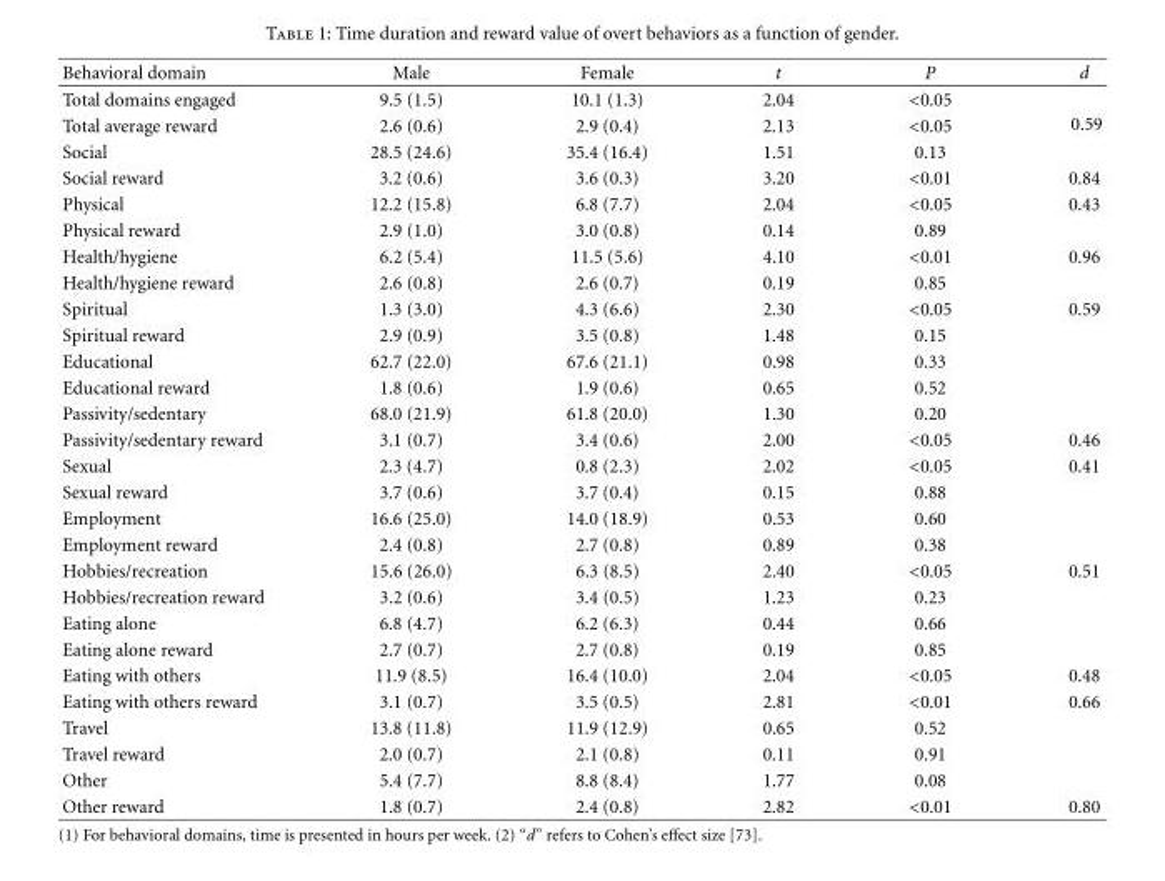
<table><thead><tr><td>Behavioral domain</td><td>Male</td><td>Female</td><td>t</td><td>P</td><td>d</td></tr></thead><tbody><tr><td>Total domains engaged</td><td>9.5 (1.5)</td><td>10.1 (1.3)</td><td>2.04</td><td>&lt;0.05</td><td rowspan="3">0.59</td></tr><tr><td>Total average reward</td><td>2.6 (0.6)</td><td>2.9 (0.4)</td><td>2.13</td><td>&lt;0.05</td></tr><tr><td>Social</td><td>28.5 (24.6)</td><td>35.4 (16.4)</td><td>1.51</td><td>0.13</td></tr><tr><td>Social reward</td><td>3.2 (0.6)</td><td>3.6 (0.3)</td><td>3.20</td><td>&lt;0.01</td><td>0.84</td></tr><tr><td>Physical</td><td>12.2 (15.8)</td><td>6.8 (7.7)</td><td>2.04</td><td>&lt;0.05</td><td>0.43</td></tr><tr><td>Physical reward</td><td>2.9 (1.0)</td><td>3.0 (0.8)</td><td>0.14</td><td>0.89</td><td></td></tr><tr><td>Health/hygiene</td><td>6.2 (5.4)</td><td>11.5 (5.6)</td><td>4.10</td><td>&lt;0.01</td><td>0.96</td></tr><tr><td>Health/hygiene reward</td><td>2.6 (0.8)</td><td>2.6 (0.7)</td><td>0.19</td><td>0.85</td><td></td></tr><tr><td>Spiritual</td><td>1.3 (3.0)</td><td>4.3 (6.6)</td><td>2.30</td><td>&lt;0.05</td><td>0.59</td></tr><tr><td>Spiritual reward</td><td>2.9 (0.9)</td><td>3.5 (0.8)</td><td>1.48</td><td>0.15</td><td></td></tr><tr><td>Educational</td><td>62.7 (22.0)</td><td>67.6 (21.1)</td><td>0.98</td><td>0.33</td><td></td></tr><tr><td>Educational reward</td><td>1.8 (0.6)</td><td>1.9 (0.6)</td><td>0.65</td><td>0.52</td><td></td></tr><tr><td>Passivity/sedentary</td><td>68.0 (21.9)</td><td>61.8 (20.0)</td><td>1.30</td><td>0.20</td><td></td></tr><tr><td>Passivity/sedentary reward</td><td>3.1 (0.7)</td><td>3.4 (0.6)</td><td>2.00</td><td>&lt;0.05</td><td>0.46</td></tr><tr><td>Sexual</td><td>2.3 (4.7)</td><td>0.8 (2.3)</td><td>2.02</td><td>&lt;0.05</td><td>0.41</td></tr><tr><td>Sexual reward</td><td>3.7 (0.6)</td><td>3.7 (0.4)</td><td>0.15</td><td>0.88</td><td></td></tr><tr><td>Employment</td><td>16.6 (25.0)</td><td>14.0 (18.9)</td><td>0.53</td><td>0.60</td><td></td></tr><tr><td>Employment reward</td><td>2.4 (0.8)</td><td>2.7 (0.8)</td><td>0.89</td><td>0.38</td><td></td></tr><tr><td>Hobbies/recreation</td><td>15.6 (26.0)</td><td>6.3 (8.5)</td><td>2.40</td><td>&lt;0.05</td><td>0.51</td></tr><tr><td>Hobbies/recreation reward</td><td>3.2 (0.6)</td><td>3.4 (0.5)</td><td>1.23</td><td>0.23</td><td></td></tr><tr><td>Eating alone</td><td>6.8 (4.7)</td><td>6.2 (6.3)</td><td>0.44</td><td>0.66</td><td></td></tr><tr><td>Eating alone reward</td><td>2.7 (0.7)</td><td>2.7 (0.8)</td><td>0.19</td><td>0.85</td><td></td></tr><tr><td>Eating with others</td><td>11.9 (8.5)</td><td>16.4 (10.0)</td><td>2.04</td><td>&lt;0.05</td><td>0.48</td></tr><tr><td>Eating with others reward</td><td>3.1 (0.7)</td><td>3.5 (0.5)</td><td>2.81</td><td>&lt;0.01</td><td>0.66</td></tr><tr><td>Travel</td><td>13.8 (11.8)</td><td>11.9 (12.9)</td><td>0.65</td><td>0.52</td><td></td></tr><tr><td>Travel reward</td><td>2.0 (0.7)</td><td>2.1 (0.8)</td><td>0.11</td><td>0.91</td><td></td></tr><tr><td>Other</td><td>5.4 (7.7)</td><td>8.8 (8.4)</td><td>1.77</td><td>0.08</td><td></td></tr><tr><td>Other reward</td><td>1.8 (0.7)</td><td>2.4 (0.8)</td><td>2.82</td><td>&lt;0.01</td><td>0.80</td></tr></tbody></table>